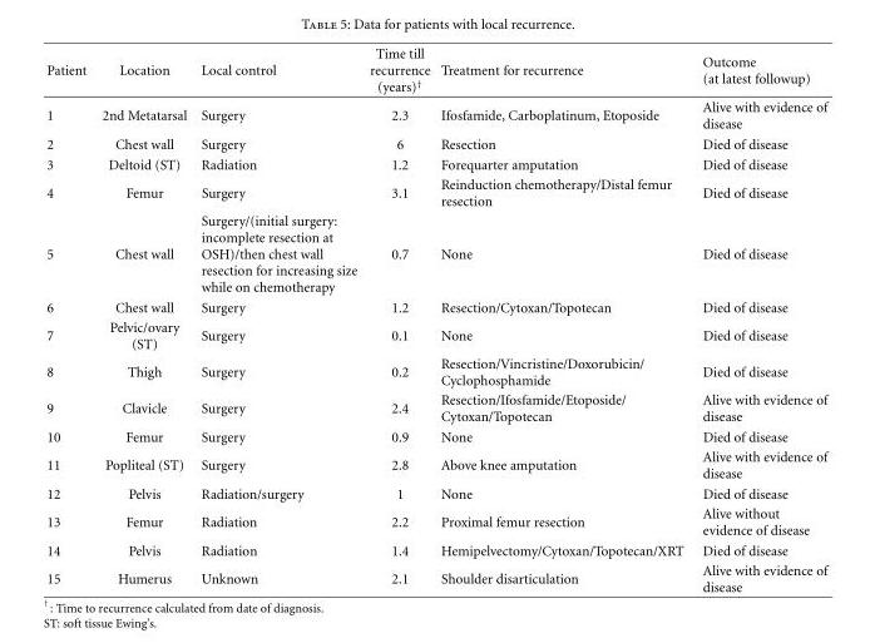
<table><thead><tr><td>Patient</td><td>Location</td><td>Local control</td><td>Time till recurrence (years)<sup>†</sup></td><td>Treatment for recurrence</td><td>Outcome (at latest followup)</td></tr></thead><tbody><tr><td>1</td><td>2nd Metatarsal</td><td>Surgery</td><td>2.3</td><td>Ifosfamide, Carboplatinum, Etoposide</td><td>Alive with evidence of disease</td></tr><tr><td>2</td><td>Chest wall</td><td>Surgery</td><td>6</td><td>Resection</td><td>Died of disease</td></tr><tr><td>3</td><td>Deltoid (ST)</td><td>Radiation</td><td>1.2</td><td>Forequarter amputation</td><td>Died of disease</td></tr><tr><td>4</td><td>Femur</td><td>Surgery</td><td>3.1</td><td>Reinduction chemotherapy/Distal femur resection</td><td>Died of disease</td></tr><tr><td>5</td><td>Chest wall</td><td>Surgery/(initial surgery: incomplete resection at OSH)/then chest wall resection for increasing size while on chemotherapy</td><td>0.7</td><td>None</td><td>Died of disease</td></tr><tr><td>6</td><td>Chest wall</td><td>Surgery</td><td>1.2</td><td>Resection/Cytoxan/Topotecan</td><td>Died of disease</td></tr><tr><td>7</td><td>Pelvic/ovary (ST)</td><td>Surgery</td><td>0.1</td><td>None</td><td>Died of disease</td></tr><tr><td>8</td><td>Thigh</td><td>Surgery</td><td>0.2</td><td>Resection/Vincristine/Doxorubicin/ Cyclophosphamide</td><td>Died of disease</td></tr><tr><td>9</td><td>Clavicle</td><td>Surgery</td><td>2.4</td><td>Resection/Ifosfamide/Etoposide/ Cytoxan/Topotecan</td><td>Alive with evidence of disease</td></tr><tr><td>10</td><td>Femur</td><td>Surgery</td><td>0.9</td><td>None</td><td>Died of disease</td></tr><tr><td>11</td><td>Popliteal (ST)</td><td>Surgery</td><td>2.8</td><td>Above knee amputation</td><td>Alive with evidence of disease</td></tr><tr><td>12</td><td>Pelvis</td><td>Radiation/surgery</td><td>1</td><td>None</td><td>Died of disease</td></tr><tr><td>13</td><td>Femur</td><td>Radiation</td><td>2.2</td><td>Proximal femur resection</td><td>Alive without evidence of disease</td></tr><tr><td>14</td><td>Pelvis</td><td>Radiation</td><td>1.4</td><td>Hemipelvectomy/Cytoxan/Topotecan/XRT</td><td>Died of disease</td></tr><tr><td>15</td><td>Humerus</td><td>Unknown</td><td>2.1</td><td>Shoulder disarticulation</td><td>Alive with evidence of disease</td></tr></tbody></table>